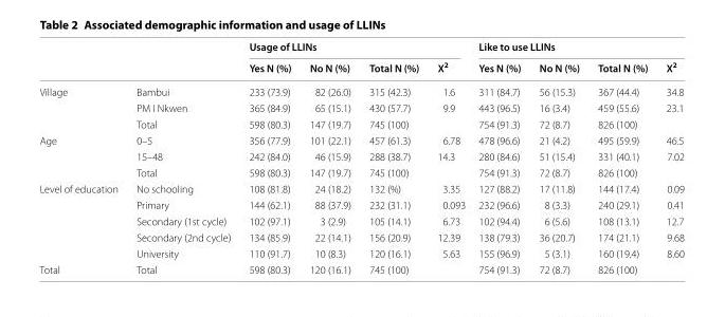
<table><thead><tr><td rowspan="2"></td><td rowspan="2"></td><td colspan="4">Usage of LLINs</td><td colspan="4">Like to use LLINs</td></tr><tr><td>Yes N (%)</td><td>No N (%)</td><td>Total N (%)</td><td>X<sup>2</sup></td><td>Yes N (%)</td><td>No N (%)</td><td>Total N (%)</td><td>X<sup>2</sup></td></tr></thead><tbody><tr><td rowspan="3">Village</td><td>Bambui</td><td>233 (73.9)</td><td>82 (26.0)</td><td>315 (42.3)</td><td>1.6</td><td>311 (84.7)</td><td>56 (15.3)</td><td>367 (44.4)</td><td>34.8</td></tr><tr><td>PM I Nkwen</td><td>365 (84.9)</td><td>65 (15.1)</td><td>430 (57.7)</td><td>9.9</td><td>443 (96.5)</td><td>16 (3.4)</td><td>459 (55.6)</td><td>23.1</td></tr><tr><td>Total</td><td>598 (80.3)</td><td>147 (19.7)</td><td>745 (100)</td><td></td><td>754 (91.3)</td><td>72 (8.7)</td><td>826 (100)</td><td></td></tr><tr><td rowspan="3">Age</td><td>0–5</td><td>356 (77.9)</td><td>101 (22.1)</td><td>457 (61.3)</td><td>6.78</td><td>478 (96.6)</td><td>21 (4.2)</td><td>495 (59.9)</td><td>46.5</td></tr><tr><td>15–48</td><td>242 (84.0)</td><td>46 (15.9)</td><td>288 (38.7)</td><td>14.3</td><td>280 (84.6)</td><td>51 (15.4)</td><td>331 (40.1)</td><td>7.02</td></tr><tr><td>Total</td><td>598 (80.3)</td><td>147 (19.7)</td><td>745 (100)</td><td></td><td>754 (91.3)</td><td>72 (8.7)</td><td>826 (100)</td><td></td></tr><tr><td rowspan="5">Level of education</td><td>No schooling</td><td>108 (81.8)</td><td>24 (18.2)</td><td>132 (%)</td><td>3.35</td><td>127 (88.2)</td><td>17 (11.8)</td><td>144 (17.4)</td><td>0.09</td></tr><tr><td>Primary</td><td>144 (62.1)</td><td>88 (37.9)</td><td>232 (31.1)</td><td>0.093</td><td>232 (96.6)</td><td>8 (3.3)</td><td>240 (29.1)</td><td>0.41</td></tr><tr><td>Secondary (1st cycle)</td><td>102 (97.1)</td><td>3 (2.9)</td><td>105 (14.1)</td><td>6.73</td><td>102 (94.4)</td><td>6 (5.6)</td><td>108 (13.1)</td><td>12.7</td></tr><tr><td>Secondary (2nd cycle)</td><td>134 (85.9)</td><td>22 (14.1)</td><td>156 (20.9)</td><td>12.39</td><td>138 (79.3)</td><td>36 (20.7)</td><td>174 (21.1)</td><td>9.68</td></tr><tr><td>University</td><td>110 (91.7)</td><td>10 (8.3)</td><td>120 (16.1)</td><td>5.63</td><td>155 (96.9)</td><td>5 (3.1)</td><td>160 (19.4)</td><td>8.60</td></tr><tr><td>Total</td><td>Total</td><td>598 (80.3)</td><td>120 (16.1)</td><td>745 (100)</td><td></td><td>754 (91.3)</td><td>72 (8.7)</td><td>826 (100)</td><td></td></tr></tbody></table>